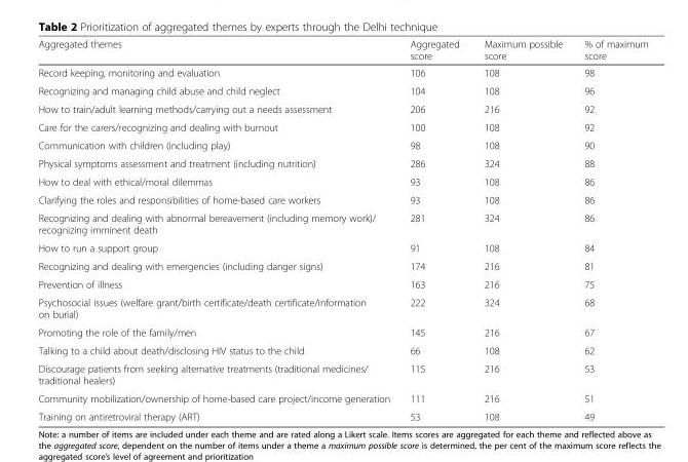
<table><thead><tr><td>Aggregated themes</td><td>Aggregated score</td><td>Maximum possible score</td><td>% of maximum score</td></tr></thead><tbody><tr><td>Record keeping, monitoring and evaluation</td><td>106</td><td>108</td><td>98</td></tr><tr><td>Recognizing and managing child abuse and child neglect</td><td>104</td><td>108</td><td>96</td></tr><tr><td>How to train/adult learning methods/carrying out a needs assessment</td><td>206</td><td>216</td><td>92</td></tr><tr><td>Care for the carers/recognizing and dealing with burnout</td><td>100</td><td>108</td><td>92</td></tr><tr><td>Communication with children (including play)</td><td>98</td><td>108</td><td>90</td></tr><tr><td>Physical symptoms assessment and treatment (including nutrition)</td><td>286</td><td>324</td><td>88</td></tr><tr><td>How to deal with ethical/moral dilemmas</td><td>93</td><td>108</td><td>86</td></tr><tr><td>Clarifying the roles and responsibilities of home-based care workers</td><td>93</td><td>108</td><td>86</td></tr><tr><td>Recognizing and dealing with abnormal bereavement (including memory work)/ recognizing imminent death</td><td>281</td><td>324</td><td>86</td></tr><tr><td>How to run a support group</td><td>91</td><td>108</td><td>84</td></tr><tr><td>Recognizing and dealing with emergencies (including danger signs)</td><td>174</td><td>216</td><td>81</td></tr><tr><td>Prevention of illness</td><td>163</td><td>216</td><td>75</td></tr><tr><td>Psychosocial issues (welfare grant/birth certificate/death certificate/information on burial)</td><td>222</td><td>324</td><td>68</td></tr><tr><td>Promoting the role of the family/men</td><td>145</td><td>216</td><td>67</td></tr><tr><td>Talking to a child about death/disclosing HIV status to the child</td><td>66</td><td>108</td><td>62</td></tr><tr><td>Discourage patients from seeking alternative treatments (traditional medicines/ traditional healers)</td><td>115</td><td>216</td><td>53</td></tr><tr><td>Community mobilization/ownership of home-based care project/income generation</td><td>111</td><td>216</td><td>51</td></tr><tr><td>Training on antiretroviral therapy (ART)</td><td>53</td><td>108</td><td>49</td></tr></tbody></table>